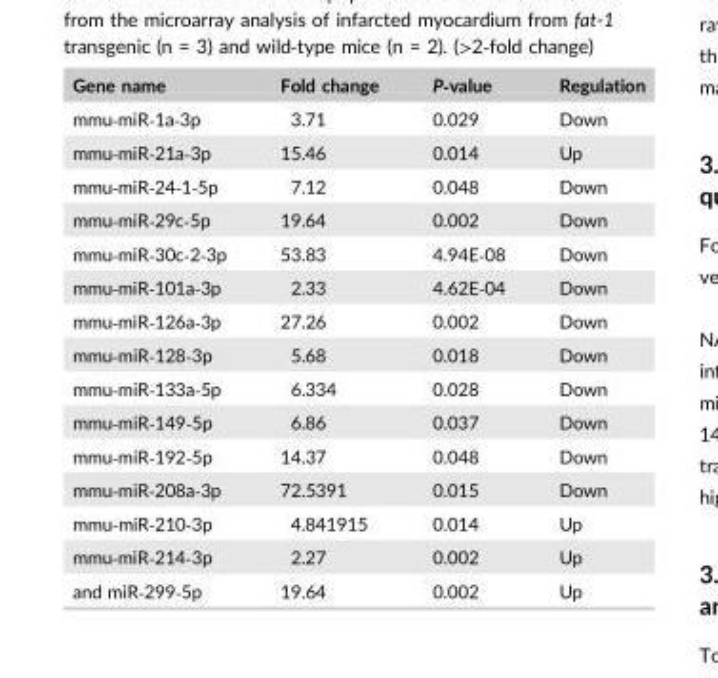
<table><thead><tr><td>Gene name</td><td>Fold change</td><td>P‐value</td><td>Regulation</td></tr></thead><tbody><tr><td>mmu‐miR‐1a‐3p</td><td>3.71</td><td>0.029</td><td>Down</td></tr><tr><td>mmu‐miR‐21a‐3p</td><td>15.46</td><td>0.014</td><td>Up</td></tr><tr><td>mmu‐miR‐24‐1‐5p</td><td>7.12</td><td>0.048</td><td>Down</td></tr><tr><td>mmu‐miR‐29c‐5p</td><td>19.64</td><td>0.002</td><td>Down</td></tr><tr><td>mmu‐miR‐30c‐2‐3p</td><td>53.83</td><td>4.94E‐08</td><td>Down</td></tr><tr><td>mmu‐miR‐101a‐3p</td><td>2.33</td><td>4.62E‐04</td><td>Down</td></tr><tr><td>mmu‐miR‐126a‐3p</td><td>27.26</td><td>0.002</td><td>Down</td></tr><tr><td>mmu‐miR‐128‐3p</td><td>5.68</td><td>0.018</td><td>Down</td></tr><tr><td>mmu‐miR‐133a‐5p</td><td>6.334</td><td>0.028</td><td>Down</td></tr><tr><td>mmu‐miR‐149‐5p</td><td>6.86</td><td>0.037</td><td>Down</td></tr><tr><td>mmu‐miR‐192‐5p</td><td>14.37</td><td>0.048</td><td>Down</td></tr><tr><td>mmu‐miR‐208a‐3p</td><td>72.5391</td><td>0.015</td><td>Down</td></tr><tr><td>mmu‐miR‐210‐3p</td><td>4.841915</td><td>0.014</td><td>Up</td></tr><tr><td>mmu‐miR‐214‐3p</td><td>2.27</td><td>0.002</td><td>Up</td></tr><tr><td>and miR‐299‐5p</td><td>19.64</td><td>0.002</td><td>Up</td></tr></tbody></table>